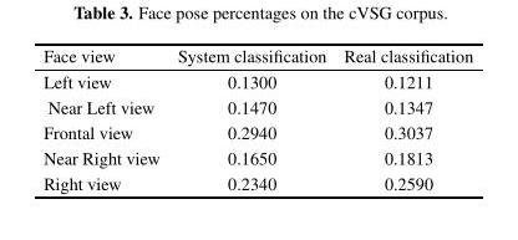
<table><thead><tr><td>Face view</td><td>System classification</td><td>Real classification</td></tr></thead><tbody><tr><td>Left view</td><td>0.1300</td><td>0.1211</td></tr><tr><td>Near Left view</td><td>0.1470</td><td>0.1347</td></tr><tr><td>Frontal view</td><td>0.2940</td><td>0.3037</td></tr><tr><td>Near Right view</td><td>0.1650</td><td>0.1813</td></tr><tr><td>Right view</td><td>0.2340</td><td>0.2590</td></tr></tbody></table>